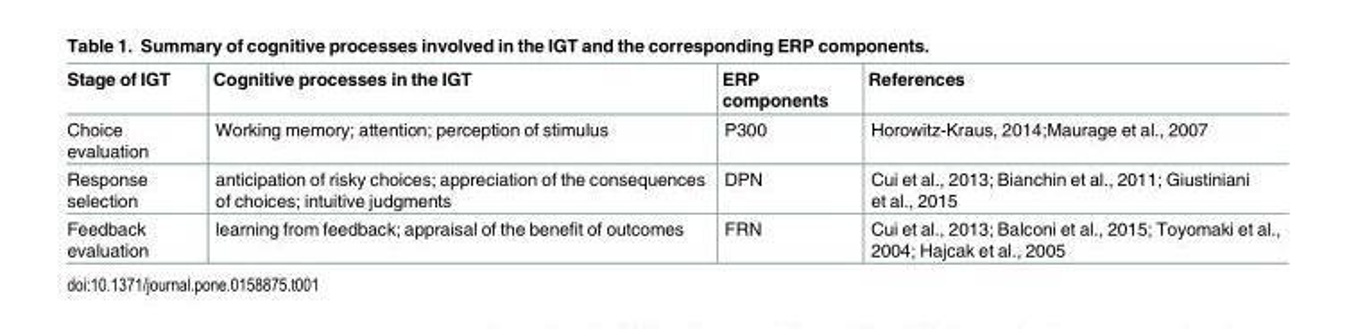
<table><thead><tr><td>Stage of IGT</td><td>Cognitive processes in the IGT</td><td>ERP components</td><td>References</td></tr></thead><tbody><tr><td>Choice evaluation</td><td>Working memory; attention; perception of stimulus</td><td>P300</td><td>Horowitz-Kraus, 2014;Maurage et al., 2007</td></tr><tr><td>Response selection</td><td>anticipation of risky choices; appreciation of the consequences of choices; intuitive judgments</td><td>DPN</td><td>Cui et al., 2013; Bianchin et al., 2011; Giustiniani et al., 2015</td></tr><tr><td>Feedback evaluation</td><td>learning from feedback; appraisal of the benefit of outcomes</td><td>FRN</td><td>Cui et al., 2013; Balconi et al., 2015; Toyomaki et al., 2004; Hajcak et al., 2005</td></tr></tbody></table>